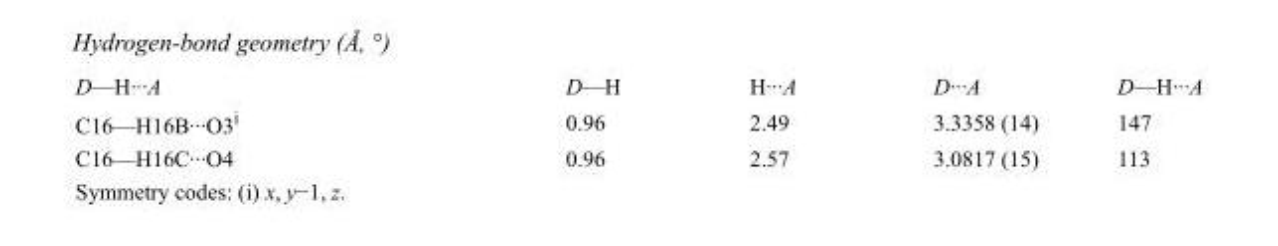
<table><tbody><tr><td>D—H···A</td><td>D—H</td><td>H···A</td><td>D···A</td><td>D—H···A</td></tr><tr><td>C16—H16B···O3<sup>i</sup></td><td>0.96</td><td>2.49</td><td>3.3358 (14)</td><td>147</td></tr><tr><td>C16—H16C···O4</td><td>0.96</td><td>2.57</td><td>3.0817 (15)</td><td>113</td></tr></tbody></table>